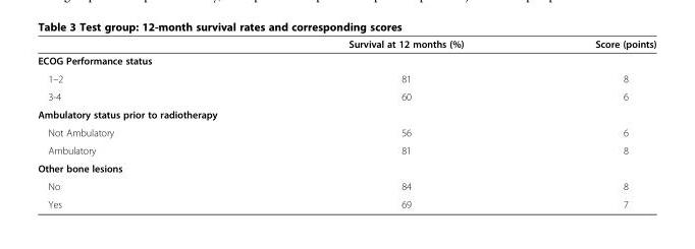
<table><thead><tr><td></td><td>Survival at 12 months (%)</td><td>Score (points)</td></tr></thead><tbody><tr><td colspan="3">ECOG Performance status</td></tr><tr><td>1–2</td><td>81</td><td>8</td></tr><tr><td>3-4</td><td>60</td><td>6</td></tr><tr><td colspan="3">Ambulatory status prior to radiotherapy</td></tr><tr><td>Not Ambulatory</td><td>56</td><td>6</td></tr><tr><td>Ambulatory</td><td>81</td><td>8</td></tr><tr><td colspan="3">Other bone lesions</td></tr><tr><td>No</td><td>84</td><td>8</td></tr><tr><td>Yes</td><td>69</td><td>7</td></tr></tbody></table>